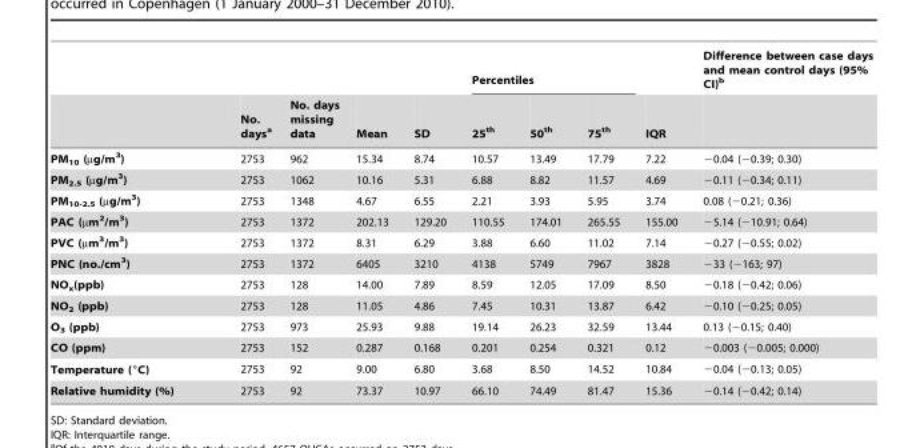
<table><thead><tr><td rowspan="2"></td><td rowspan="2">No. days<sup>a</sup></td><td rowspan="2">No. days missing data</td><td rowspan="2">Mean</td><td rowspan="2">SD</td><td colspan="3">Percentiles</td><td rowspan="2">IQR</td><td rowspan="2">Difference between case days and mean control days (95% CI)<sup>b</sup></td></tr><tr><td>25<sup>th</sup></td><td>50<sup>th</sup></td><td>75<sup>th</sup></td></tr></thead><tbody><tr><td>PM<sub>10</sub> (µg/m<sup>3</sup>)</td><td>2753</td><td>962</td><td>15.34</td><td>8.74</td><td>10.57</td><td>13.49</td><td>17.79</td><td>7.22</td><td>−0.04 (−0.39; 0.30)</td></tr><tr><td>PM<sub>2.5</sub> (µg/m<sup>3</sup>)</td><td>2753</td><td>1062</td><td>10.16</td><td>5.31</td><td>6.88</td><td>8.82</td><td>11.57</td><td>4.69</td><td>−0.11 (−0.34; 0.11)</td></tr><tr><td>PM<sub>10-2.5</sub> (µg/m<sup>3</sup>)</td><td>2753</td><td>1348</td><td>4.67</td><td>6.55</td><td>2.21</td><td>3.93</td><td>5.95</td><td>3.74</td><td>0.08 (−0.21; 0.36)</td></tr><tr><td>PAC (µm<sup>2</sup>/m<sup>3</sup>)</td><td>2753</td><td>1372</td><td>202.13</td><td>129.20</td><td>110.55</td><td>174.01</td><td>265.55</td><td>155.00</td><td>−5.14 (−10.91; 0.64)</td></tr><tr><td>PVC (µm<sup>3</sup>/m<sup>3</sup>)</td><td>2753</td><td>1372</td><td>8.31</td><td>6.29</td><td>3.88</td><td>6.60</td><td>11.02</td><td>7.14</td><td>−0.27 (−0.55; 0.02)</td></tr><tr><td>PNC (no./cm<sup>3</sup>)</td><td>2753</td><td>1372</td><td>6405</td><td>3210</td><td>4138</td><td>5749</td><td>7967</td><td>3828</td><td>−33 (−163; 97)</td></tr><tr><td>NO<sub>x</sub>(ppb)</td><td>2753</td><td>128</td><td>14.00</td><td>7.89</td><td>8.59</td><td>12.05</td><td>17.09</td><td>8.50</td><td>−0.18 (−0.42; 0.06)</td></tr><tr><td>NO<sub>2</sub> (ppb)</td><td>2753</td><td>128</td><td>11.05</td><td>4.86</td><td>7.45</td><td>10.31</td><td>13.87</td><td>6.42</td><td>−0.10 (−0.25; 0.05)</td></tr><tr><td>O<sub>3</sub> (ppb)</td><td>2753</td><td>973</td><td>25.93</td><td>9.88</td><td>19.14</td><td>26.23</td><td>32.59</td><td>13.44</td><td>0.13 (−0.15; 0.40)</td></tr><tr><td>CO (ppm)</td><td>2753</td><td>152</td><td>0.287</td><td>0.168</td><td>0.201</td><td>0.254</td><td>0.321</td><td>0.12</td><td>−0.003 (−0.005; 0.000)</td></tr><tr><td>Temperature (°C)</td><td>2753</td><td>92</td><td>9.00</td><td>6.80</td><td>3.68</td><td>8.50</td><td>14.52</td><td>10.84</td><td>−0.04 (−0.13; 0.05)</td></tr><tr><td>Relative humidity (%)</td><td>2753</td><td>92</td><td>73.37</td><td>10.97</td><td>66.10</td><td>74.49</td><td>81.47</td><td>15.36</td><td>−0.14 (−0.42; 0.14)</td></tr></tbody></table>